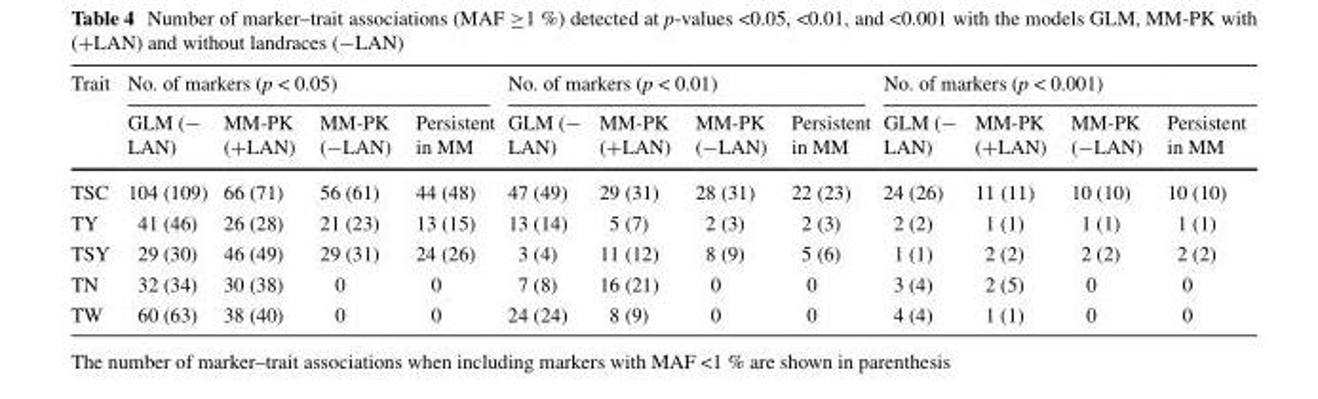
<table><thead><tr><td rowspan="2">Trait</td><td colspan="4">No. of markers (p &lt; 0.05)</td><td colspan="4">No. of markers (p &lt; 0.01)</td><td colspan="4">No. of markers (p &lt; 0.001)</td></tr><tr><td>GLM (− LAN)</td><td>MM-PK (+LAN)</td><td>MM-PK (−LAN)</td><td>Persistent in MM</td><td>GLM (− LAN)</td><td>MM-PK (+LAN)</td><td>MM-PK (−LAN)</td><td>Persistent in MM</td><td>GLM (− LAN)</td><td>MM-PK (+LAN)</td><td>MM-PK (−LAN)</td><td>Persistent in MM</td></tr></thead><tbody><tr><td>TSC</td><td>104 (109)</td><td>66 (71)</td><td>56 (61)</td><td>44 (48)</td><td>47 (49)</td><td>29 (31)</td><td>28 (31)</td><td>22 (23)</td><td>24 (26)</td><td>11 (11)</td><td>10 (10)</td><td>10 (10)</td></tr><tr><td>TY</td><td>41 (46)</td><td>26 (28)</td><td>21 (23)</td><td>13 (15)</td><td>13 (14)</td><td>5 (7)</td><td>2 (3)</td><td>2 (3)</td><td>2 (2)</td><td>1 (1)</td><td>1 (1)</td><td>1 (1)</td></tr><tr><td>TSY</td><td>29 (30)</td><td>46 (49)</td><td>29 (31)</td><td>24 (26)</td><td>3 (4)</td><td>11 (12)</td><td>8 (9)</td><td>5 (6)</td><td>1 (1)</td><td>2 (2)</td><td>2 (2)</td><td>2 (2)</td></tr><tr><td>TN</td><td>32 (34)</td><td>30 (38)</td><td>0</td><td>0</td><td>7 (8)</td><td>16 (21)</td><td>0</td><td>0</td><td>3 (4)</td><td>2 (5)</td><td>0</td><td>0</td></tr><tr><td>TW</td><td>60 (63)</td><td>38 (40)</td><td>0</td><td>0</td><td>24 (24)</td><td>8 (9)</td><td>0</td><td>0</td><td>4 (4)</td><td>1 (1)</td><td>0</td><td>0</td></tr></tbody></table>